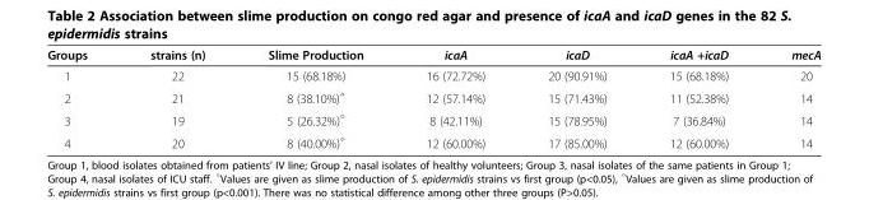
<table><thead><tr><td>Groups</td><td>strains (n)</td><td>Slime Production</td><td>icaA</td><td>icaD</td><td>icaA +icaD</td><td>mecA</td></tr></thead><tbody><tr><td>1</td><td>22</td><td>15 (68.18%)</td><td>16 (72.72%)</td><td>20 (90.91%)</td><td>15 (68.18%)</td><td>20</td></tr><tr><td>2</td><td>21</td><td>8 (38.10%)<sup>△</sup></td><td>12 (57.14%)</td><td>15 (71.43%)</td><td>11 (52.38%)</td><td>14</td></tr><tr><td>3</td><td>19</td><td>5 (26.32%)<sup>◇</sup></td><td>8 (42.11%)</td><td>15 (78.95%)</td><td>7 (36.84%)</td><td>14</td></tr><tr><td>4</td><td>20</td><td>8 (40.00%)<sup>◇</sup></td><td>12 (60.00%)</td><td>17 (85.00%)</td><td>12 (60.00%)</td><td>14</td></tr></tbody></table>